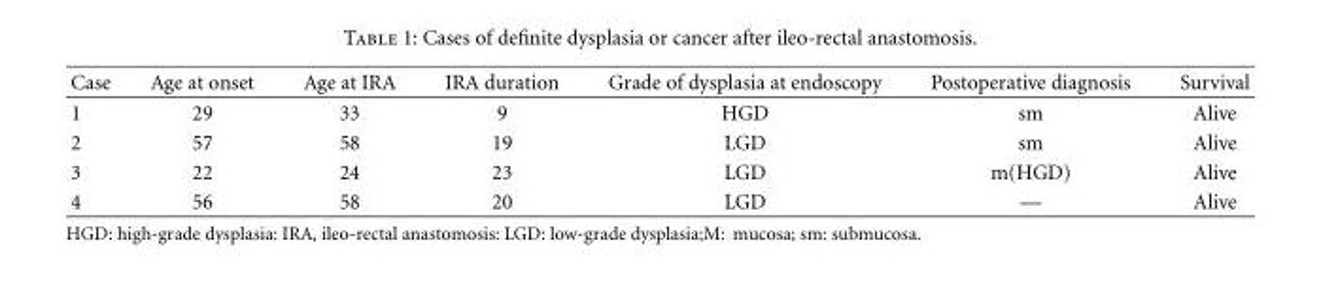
<table><thead><tr><td>Case</td><td>Age at onset</td><td>Age at IRA</td><td>IRA duration</td><td>Grade of dysplasia at endoscopy</td><td>Postoperative diagnosis</td><td>Survival</td></tr></thead><tbody><tr><td>1</td><td>29</td><td>33</td><td>9</td><td>HGD</td><td>sm</td><td>Alive</td></tr><tr><td>2</td><td>57</td><td>58</td><td>19</td><td>LGD</td><td>sm</td><td>Alive</td></tr><tr><td>3</td><td>22</td><td>24</td><td>23</td><td>LGD</td><td>m(HGD)</td><td>Alive</td></tr><tr><td>4</td><td>56</td><td>58</td><td>20</td><td>LGD</td><td>—</td><td>Alive</td></tr></tbody></table>